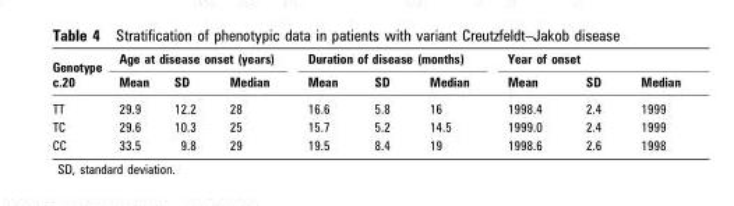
<table><thead><tr><td rowspan="2">Genotype c.20</td><td colspan="3">Age at disease onset (years)</td><td colspan="3">Duration of disease (months)</td><td colspan="3">Year of onset</td></tr><tr><td>Mean</td><td>SD</td><td>Median</td><td>Mean</td><td>SD</td><td>Median</td><td>Mean</td><td>SD</td><td>Median</td></tr></thead><tbody><tr><td>TT</td><td>29.9</td><td>12.2</td><td>28</td><td>16.6</td><td>5.8</td><td>16</td><td>1998.4</td><td>2.4</td><td>1999</td></tr><tr><td>TC</td><td>29.6</td><td>10.3</td><td>25</td><td>15.7</td><td>5.2</td><td>14.5</td><td>1999.0</td><td>2.4</td><td>1999</td></tr><tr><td>CC</td><td>33.5</td><td>9.8</td><td>29</td><td>19.5</td><td>8.4</td><td>19</td><td>1998.6</td><td>2.6</td><td>1998</td></tr></tbody></table>